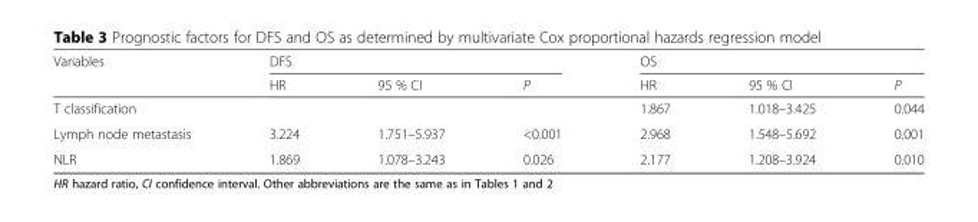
<table><thead><tr><td rowspan="2">Variables</td><td colspan="3">DFS</td><td colspan="3">OS</td></tr><tr><td>HR</td><td>95 % CI</td><td>P</td><td>HR</td><td>95 % CI</td><td>P</td></tr></thead><tbody><tr><td>T classification</td><td></td><td></td><td></td><td>1.867</td><td>1.018–3.425</td><td>0.044</td></tr><tr><td>Lymph node metastasis</td><td>3.224</td><td>1.751–5.937</td><td>&lt;0.001</td><td>2.968</td><td>1.548–5.692</td><td>0.001</td></tr><tr><td>NLR</td><td>1.869</td><td>1.078–3.243</td><td>0.026</td><td>2.177</td><td>1.208–3.924</td><td>0.010</td></tr></tbody></table>